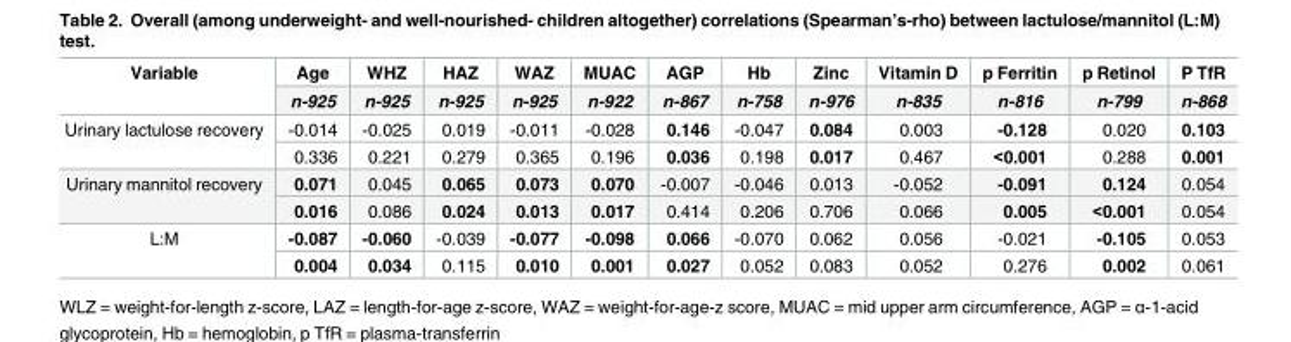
<table><thead><tr><td rowspan="2">Variable</td><td rowspan="2">Age n-925</td><td rowspan="2">WHZ n-925</td><td rowspan="2">HAZ n-925</td><td rowspan="2">WAZ n-925</td><td rowspan="2">MUAC n-922</td><td rowspan="2">AGP n-867</td><td rowspan="2">Hb n-758</td><td rowspan="2">Zinc n-976</td><td rowspan="2">Vitamin D n-835</td><td rowspan="2">p Ferritin n-816</td><td rowspan="2">p Retinol n-799</td><td rowspan="2">P TfR n-868</td></tr><tr></tr></thead><tbody><tr><td rowspan="2">Urinary lactulose recovery</td><td>-0.014</td><td>-0.025</td><td>0.019</td><td>-0.011</td><td>-0.028</td><td>0.146</td><td>-0.047</td><td>0.084</td><td>0.003</td><td>-0.128</td><td>0.020</td><td>0.103</td></tr><tr><td>0.336</td><td>0.221</td><td>0.279</td><td>0.365</td><td>0.196</td><td>0.036</td><td>0.198</td><td>0.017</td><td>0.467</td><td>&lt;0.001</td><td>0.288</td><td>0.001</td></tr><tr><td rowspan="2">Urinary mannitol recovery</td><td>0.071</td><td>0.045</td><td>0.065</td><td>0.073</td><td>0.070</td><td>-0.007</td><td>-0.046</td><td>0.013</td><td>-0.052</td><td>-0.091</td><td>0.124</td><td>0.054</td></tr><tr><td>0.016</td><td>0.086</td><td>0.024</td><td>0.013</td><td>0.017</td><td>0.414</td><td>0.206</td><td>0.706</td><td>0.066</td><td>0.005</td><td>&lt;0.001</td><td>0.054</td></tr><tr><td rowspan="2">L:M</td><td>-0.087</td><td>-0.060</td><td>-0.039</td><td>-0.077</td><td>-0.098</td><td>0.066</td><td>-0.070</td><td>0.062</td><td>0.056</td><td>-0.021</td><td>-0.105</td><td>0.053</td></tr><tr><td>0.004</td><td>0.034</td><td>0.115</td><td>0.010</td><td>0.001</td><td>0.027</td><td>0.052</td><td>0.083</td><td>0.052</td><td>0.276</td><td>0.002</td><td>0.061</td></tr></tbody></table>